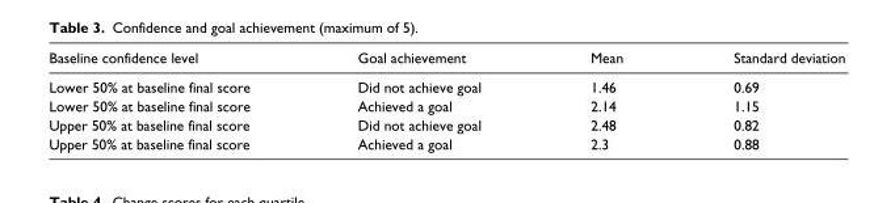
<table><thead><tr><td>Baseline confidence level</td><td>Goal achievement</td><td>Mean</td><td>Standard deviation</td></tr></thead><tbody><tr><td>Lower 50% at baseline final score</td><td>Did not achieve goal</td><td>1.46</td><td>0.69</td></tr><tr><td>Lower 50% at baseline final score</td><td>Achieved a goal</td><td>2.14</td><td>1.15</td></tr><tr><td>Upper 50% at baseline final score</td><td>Did not achieve goal</td><td>2.48</td><td>0.82</td></tr><tr><td>Upper 50% at baseline final score</td><td>Achieved a goal</td><td>2.3</td><td>0.88</td></tr></tbody></table>